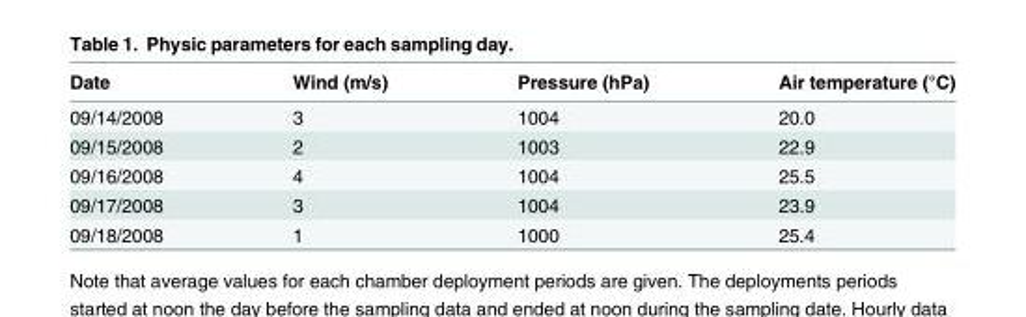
<table><thead><tr><td>Date</td><td>Wind (m/s)</td><td>Pressure (hPa)</td><td>Air temperature (°C)</td></tr></thead><tbody><tr><td>09/14/2008</td><td>3</td><td>1004</td><td>20.0</td></tr><tr><td>09/15/2008</td><td>2</td><td>1003</td><td>22.9</td></tr><tr><td>09/16/2008</td><td>4</td><td>1004</td><td>25.5</td></tr><tr><td>09/17/2008</td><td>3</td><td>1004</td><td>23.9</td></tr><tr><td>09/18/2008</td><td>1</td><td>1000</td><td>25.4</td></tr></tbody></table>